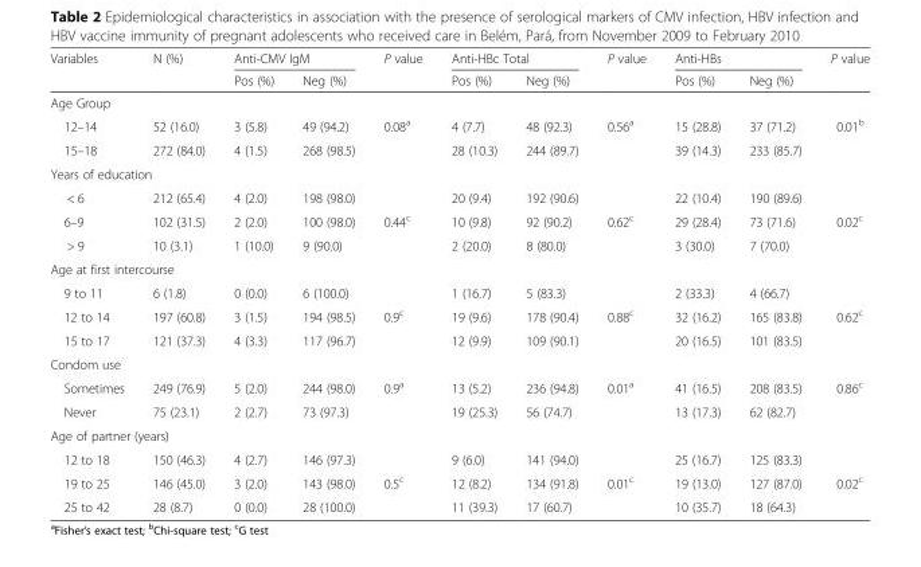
<table><thead><tr><td rowspan="2">Variables</td><td rowspan="2">N (%)</td><td colspan="2">Anti-CMV IgM</td><td rowspan="2">P value</td><td colspan="2">Anti-HBc Total</td><td rowspan="2">P value</td><td colspan="2">Anti-HBs</td><td rowspan="2">P value</td></tr><tr><td>Pos (%)</td><td>Neg (%)</td><td>Pos (%)</td><td>Neg (%)</td><td>Pos (%)</td><td>Neg (%)</td></tr></thead><tbody><tr><td colspan="11">Age Group</td></tr><tr><td>12–14</td><td>52 (16.0)</td><td>3 (5.8)</td><td>49 (94.2)</td><td>0.08<sup>a</sup></td><td>4 (7.7)</td><td>48 (92.3)</td><td>0.56<sup>a</sup></td><td>15 (28.8)</td><td>37 (71.2)</td><td>0.01<sup>b</sup></td></tr><tr><td>15–18</td><td>272 (84.0)</td><td>4 (1.5)</td><td>268 (98.5)</td><td></td><td>28 (10.3)</td><td>244 (89.7)</td><td></td><td>39 (14.3)</td><td>233 (85.7)</td><td></td></tr><tr><td colspan="11">Years of education</td></tr><tr><td>&lt; 6</td><td>212 (65.4)</td><td>4 (2.0)</td><td>198 (98.0)</td><td></td><td>20 (9.4)</td><td>192 (90.6)</td><td></td><td>22 (10.4)</td><td>190 (89.6)</td><td></td></tr><tr><td>6–9</td><td>102 (31.5)</td><td>2 (2.0)</td><td>100 (98.0)</td><td>0.44<sup>c</sup></td><td>10 (9.8)</td><td>92 (90.2)</td><td>0.62<sup>c</sup></td><td>29 (28.4)</td><td>73 (71.6)</td><td>0.02<sup>c</sup></td></tr><tr><td>&gt; 9</td><td>10 (3.1)</td><td>1 (10.0)</td><td>9 (90.0)</td><td></td><td>2 (20.0)</td><td>8 (80.0)</td><td></td><td>3 (30.0)</td><td>7 (70.0)</td><td></td></tr><tr><td colspan="11">Age at first intercourse</td></tr><tr><td>9 to 11</td><td>6 (1.8)</td><td>0 (0.0)</td><td>6 (100.0)</td><td></td><td>1 (16.7)</td><td>5 (83.3)</td><td></td><td>2 (33.3)</td><td>4 (66.7)</td><td></td></tr><tr><td>12 to 14</td><td>197 (60.8)</td><td>3 (1.5)</td><td>194 (98.5)</td><td>0.9<sup>c</sup></td><td>19 (9.6)</td><td>178 (90.4)</td><td>0.88<sup>c</sup></td><td>32 (16.2)</td><td>165 (83.8)</td><td>0.62<sup>c</sup></td></tr><tr><td>15 to 17</td><td>121 (37.3)</td><td>4 (3.3)</td><td>117 (96.7)</td><td></td><td>12 (9.9)</td><td>109 (90.1)</td><td></td><td>20 (16.5)</td><td>101 (83.5)</td><td></td></tr><tr><td colspan="11">Condom use</td></tr><tr><td>Sometimes</td><td>249 (76.9)</td><td>5 (2.0)</td><td>244 (98.0)</td><td>0.9<sup>a</sup></td><td>13 (5.2)</td><td>236 (94.8)</td><td>0.01<sup>a</sup></td><td>41 (16.5)</td><td>208 (83.5)</td><td>0.86<sup>c</sup></td></tr><tr><td>Never</td><td>75 (23.1)</td><td>2 (2.7)</td><td>73 (97.3)</td><td></td><td>19 (25.3)</td><td>56 (74.7)</td><td></td><td>13 (17.3)</td><td>62 (82.7)</td><td></td></tr><tr><td colspan="11">Age of partner (years)</td></tr><tr><td>12 to 18</td><td>150 (46.3)</td><td>4 (2.7)</td><td>146 (97.3)</td><td></td><td>9 (6.0)</td><td>141 (94.0)</td><td></td><td>25 (16.7)</td><td>125 (83.3)</td><td></td></tr><tr><td>19 to 25</td><td>146 (45.0)</td><td>3 (2.0)</td><td>143 (98.0)</td><td>0.5<sup>c</sup></td><td>12 (8.2)</td><td>134 (91.8)</td><td>0.01<sup>c</sup></td><td>19 (13.0)</td><td>127 (87.0)</td><td>0.02<sup>c</sup></td></tr><tr><td>25 to 42</td><td>28 (8.7)</td><td>0 (0.0)</td><td>28 (100.0)</td><td></td><td>11 (39.3)</td><td>17 (60.7)</td><td></td><td>10 (35.7)</td><td>18 (64.3)</td><td></td></tr></tbody></table>